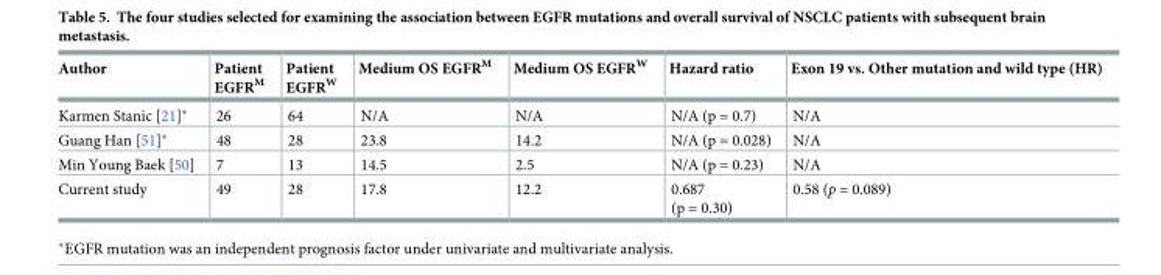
<table><thead><tr><td>Author</td><td>Patient EGFR<sup>M</sup></td><td>Patient EGFR<sup>W</sup></td><td>Medium OS EGFR<sup>M</sup></td><td>Medium OS EGFR<sup>W</sup></td><td>Hazard ratio</td><td>Exon 19 vs. Other mutation and wild type (HR)</td></tr></thead><tbody><tr><td>Karmen Stanic [21]*</td><td>26</td><td>64</td><td>N/A</td><td>N/A</td><td>N/A (p = 0.7)</td><td>N/A</td></tr><tr><td>Guang Han [51]*</td><td>48</td><td>28</td><td>23.8</td><td>14.2</td><td>N/A (p = 0.028)</td><td>N/A</td></tr><tr><td>Min Young Baek [50]</td><td>7</td><td>13</td><td>14.5</td><td>2.5</td><td>N/A (p = 0.23)</td><td>N/A</td></tr><tr><td>Current study</td><td>49</td><td>28</td><td>17.8</td><td>12.2</td><td>0.687 (p = 0.30)</td><td>0.58 (p = 0.089)</td></tr></tbody></table>